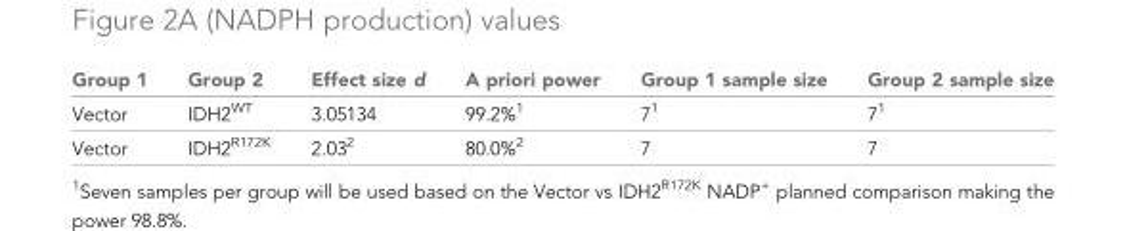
<table><thead><tr><td>Group 1</td><td>Group 2</td><td>Effect size d</td><td>A priori power</td><td>Group 1 sample size</td><td>Group 2 sample size</td></tr></thead><tbody><tr><td>Vector</td><td>IDH2<sup>WT</sup></td><td>3.05134</td><td>99.2%<sup>1</sup></td><td>7<sup>1</sup></td><td>7<sup>1</sup></td></tr><tr><td>Vector</td><td>IDH2<sup>R172K</sup></td><td>2.03<sup>2</sup></td><td>80.0%<sup>2</sup></td><td>7</td><td>7</td></tr></tbody></table>